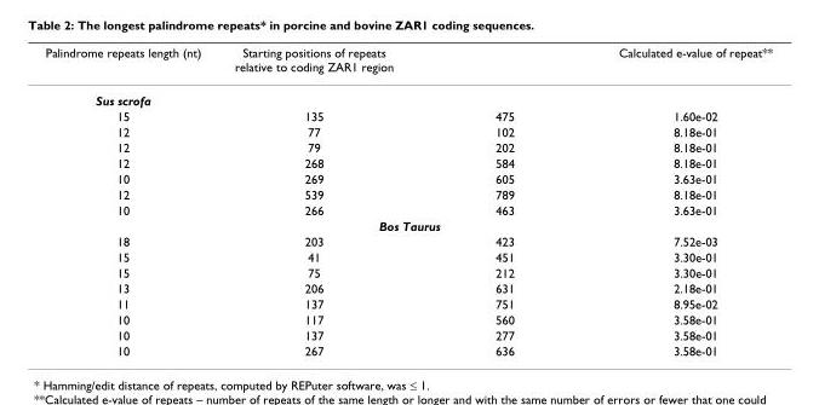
<table><thead><tr><td>Palindrome repeats length (nt)</td><td>Starting positions of repeats relative to coding ZAR1 region</td><td></td><td>Calculated e-value of repeat**</td></tr></thead><tbody><tr><td colspan="4">Sus scrofa</td></tr><tr><td>15</td><td>135</td><td>475</td><td>1.60e-02</td></tr><tr><td>12</td><td>77</td><td>102</td><td>8.18e-01</td></tr><tr><td>12</td><td>79</td><td>202</td><td>8.18e-01</td></tr><tr><td>12</td><td>268</td><td>584</td><td>8.18e-01</td></tr><tr><td>10</td><td>269</td><td>605</td><td>3.63e-01</td></tr><tr><td>12</td><td>539</td><td>789</td><td>8.18e-01</td></tr><tr><td>10</td><td>266</td><td>463</td><td>3.63e-01</td></tr><tr><td colspan="4">Bos Taurus</td></tr><tr><td>18</td><td>203</td><td>423</td><td>7.52e-03</td></tr><tr><td>15</td><td>41</td><td>451</td><td>3.30e-01</td></tr><tr><td>15</td><td>75</td><td>212</td><td>3.30e-01</td></tr><tr><td>13</td><td>206</td><td>631</td><td>2.18e-01</td></tr><tr><td>11</td><td>137</td><td>751</td><td>8.95e-02</td></tr><tr><td>10</td><td>117</td><td>560</td><td>3.58e-01</td></tr><tr><td>10</td><td>137</td><td>277</td><td>3.58e-01</td></tr><tr><td>10</td><td>267</td><td>636</td><td>3.58e-01</td></tr></tbody></table>